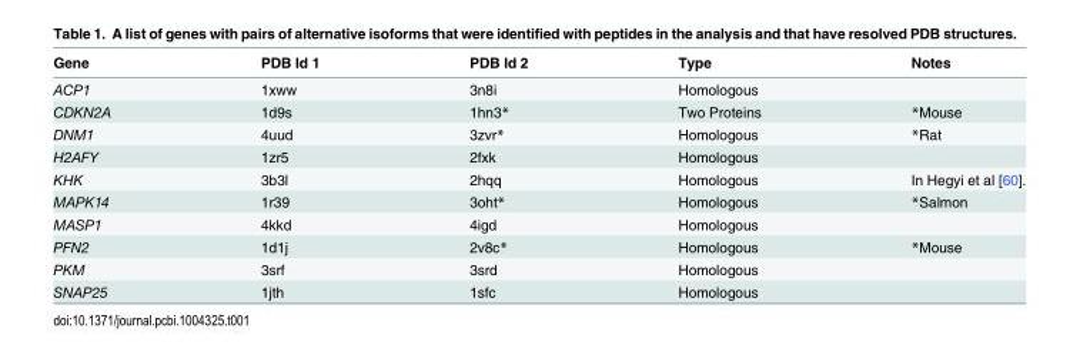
<table><thead><tr><td>Gene</td><td>PDB Id 1</td><td>PDB Id 2</td><td>Type</td><td>Notes</td></tr></thead><tbody><tr><td>ACP1</td><td>1xww</td><td>3n8i</td><td>Homologous</td><td></td></tr><tr><td>CDKN2A</td><td>1d9s</td><td>1hn3*</td><td>Two Proteins</td><td>*Mouse</td></tr><tr><td>DNM1</td><td>4uud</td><td>3zvr*</td><td>Homologous</td><td>*Rat</td></tr><tr><td>H2AFY</td><td>1zr5</td><td>2fxk</td><td>Homologous</td><td></td></tr><tr><td>KHK</td><td>3b3l</td><td>2hqq</td><td>Homologous</td><td>In Hegyi et al [60].</td></tr><tr><td>MAPK14</td><td>1r39</td><td>3oht*</td><td>Homologous</td><td>*Salmon</td></tr><tr><td>MASP1</td><td>4kkd</td><td>4igd</td><td>Homologous</td><td></td></tr><tr><td>PFN2</td><td>1d1j</td><td>2v8c*</td><td>Homologous</td><td>*Mouse</td></tr><tr><td>PKM</td><td>3srf</td><td>3srd</td><td>Homologous</td><td></td></tr><tr><td>SNAP25</td><td>1jth</td><td>1sfc</td><td>Homologous</td><td></td></tr></tbody></table>